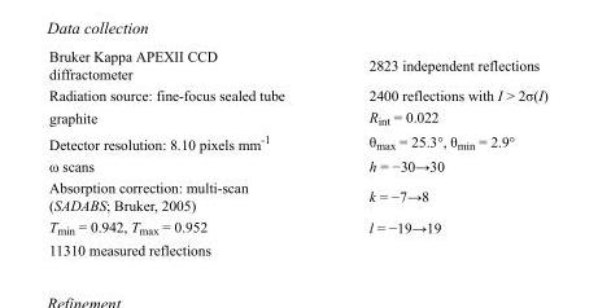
<table><tbody><tr><td>Bruker Kappa APEXII CCD diffractometer</td><td>2823 independent reflections</td></tr><tr><td>Radiation source: fine-focus sealed tube</td><td>2400 reflections with I &gt; 2σ(I)</td></tr><tr><td>graphite</td><td>R<sub>int</sub> = 0.022</td></tr><tr><td>Detector resolution: 8.10 pixels mm<sup>-1</sup></td><td>θ<sub>max</sub> = 25.3°, θ<sub>min</sub> = 2.9°</td></tr><tr><td>ω scans</td><td>h = −30→30</td></tr><tr><td>Absorption correction: multi-scan (SADABS; Bruker, 2005)</td><td>k = −7→8</td></tr><tr><td>T<sub>min</sub> = 0.942, T<sub>max</sub> = 0.952</td><td>l = −19→19</td></tr><tr><td>11310 measured reflections</td><td></td></tr></tbody></table>